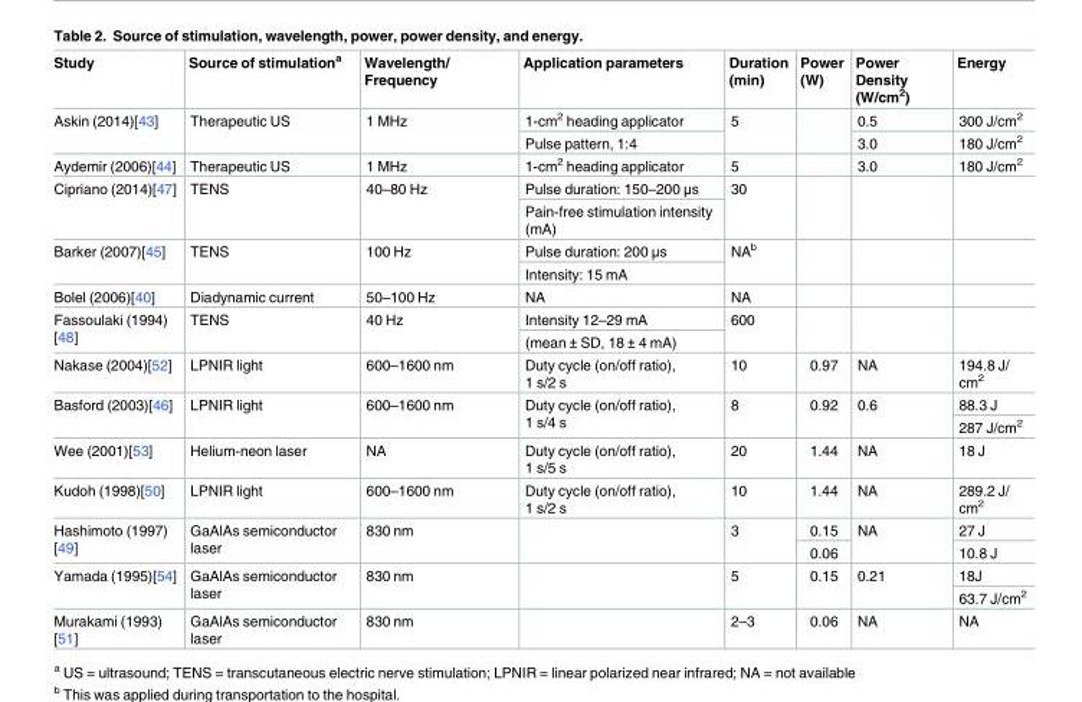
<table><thead><tr><td>Study</td><td>Source of stimulation<sup>a</sup></td><td>Wavelength/ Frequency</td><td>Application parameters</td><td>Duration (min)</td><td>Power (W)</td><td>Power Density (W/cm<sup>2</sup>)</td><td>Energy</td></tr></thead><tbody><tr><td rowspan="2">Askin (2014)[43]</td><td rowspan="2">Therapeutic US</td><td rowspan="2">1 MHz</td><td>1-cm<sup>2</sup> heading applicator</td><td rowspan="2">5</td><td rowspan="2"></td><td>0.5</td><td>300 J/cm<sup>2</sup></td></tr><tr><td>Pulse pattern, 1:4</td><td>3.0</td><td>180 J/cm<sup>2</sup></td></tr><tr><td>Aydemir (2006)[44]</td><td>Therapeutic US</td><td>1 MHz</td><td>1-cm<sup>2</sup> heading applicator</td><td>5</td><td></td><td>3.0</td><td>180 J/cm<sup>2</sup></td></tr><tr><td rowspan="2">Cipriano (2014)[47]</td><td rowspan="2">TENS</td><td rowspan="2">40–80 Hz</td><td>Pulse duration: 150–200 μs</td><td rowspan="2">30</td><td rowspan="2"></td><td rowspan="2"></td><td rowspan="2"></td></tr><tr><td>Pain-free stimulation intensity (mA)</td></tr><tr><td rowspan="2">Barker (2007)[45]</td><td rowspan="2">TENS</td><td rowspan="2">100 Hz</td><td>Pulse duration: 200 μs</td><td rowspan="2">NA<sup>b</sup></td><td rowspan="2"></td><td rowspan="2"></td><td rowspan="2"></td></tr><tr><td>Intensity: 15 mA</td></tr><tr><td>Bolel (2006)[40]</td><td>Diadynamic current</td><td>50–100 Hz</td><td>NA</td><td>NA</td><td></td><td></td><td></td></tr><tr><td rowspan="2">Fassoulaki (1994) [48]</td><td rowspan="2">TENS</td><td rowspan="2">40 Hz</td><td>Intensity 12–29 mA</td><td rowspan="2">600</td><td rowspan="2"></td><td rowspan="2"></td><td rowspan="2"></td></tr><tr><td>(mean ± SD, 18 ± 4 mA)</td></tr><tr><td>Nakase (2004)[52]</td><td>LPNIR light</td><td>600–1600 nm</td><td>Duty cycle (on/off ratio), 1 s/2 s</td><td>10</td><td>0.97</td><td>NA</td><td>194.8 J/ cm<sup>2</sup></td></tr><tr><td rowspan="2">Basford (2003)[46]</td><td rowspan="2">LPNIR light</td><td rowspan="2">600–1600 nm</td><td rowspan="2">Duty cycle (on/off ratio), 1 s/4 s</td><td rowspan="2">8</td><td rowspan="2">0.92</td><td rowspan="2">0.6</td><td>88.3 J</td></tr><tr><td>287 J/cm<sup>2</sup></td></tr><tr><td>Wee (2001)[53]</td><td>Helium-neon laser</td><td>NA</td><td>Duty cycle (on/off ratio), 1 s/5 s</td><td>20</td><td>1.44</td><td>NA</td><td>18 J</td></tr><tr><td>Kudoh (1998)[50]</td><td>LPNIR light</td><td>600–1600 nm</td><td>Duty cycle (on/off ratio), 1 s/2 s</td><td>10</td><td>1.44</td><td>NA</td><td>289.2 J/ cm<sup>2</sup></td></tr><tr><td rowspan="2">Hashimoto (1997) [49]</td><td rowspan="2">GaAlAs semiconductor laser</td><td rowspan="2">830 nm</td><td rowspan="2"></td><td rowspan="2">3</td><td>0.15</td><td rowspan="2">NA</td><td>27 J</td></tr><tr><td>0.06</td><td>10.8 J</td></tr><tr><td rowspan="2">Yamada (1995)[54]</td><td rowspan="2">GaAlAs semiconductor laser</td><td rowspan="2">830 nm</td><td rowspan="2"></td><td rowspan="2">5</td><td rowspan="2">0.15</td><td rowspan="2">0.21</td><td>18J</td></tr><tr><td>63.7 J/cm<sup>2</sup></td></tr><tr><td>Murakami (1993) [51]</td><td>GaAlAs semiconductor laser</td><td>830 nm</td><td></td><td>2–3</td><td>0.06</td><td>NA</td><td>NA</td></tr></tbody></table>